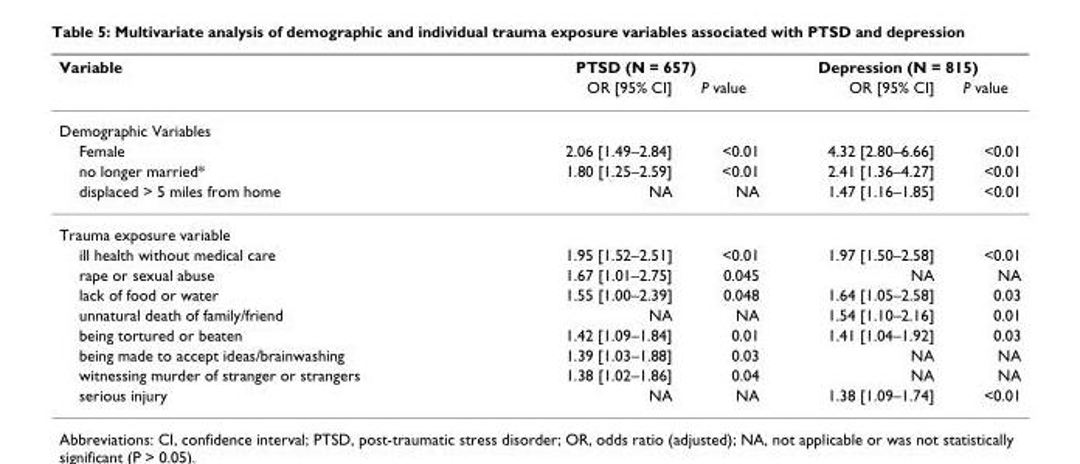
<table><thead><tr><td rowspan="2">Variable</td><td colspan="2">PTSD (N = 657)</td><td colspan="2">Depression (N = 815)</td></tr><tr><td>OR [95% CI]</td><td>P value</td><td>OR [95% CI]</td><td>P value</td></tr></thead><tbody><tr><td colspan="5">Demographic Variables</td></tr><tr><td>Female</td><td>2.06 [1.49–2.84]</td><td>&lt;0.01</td><td>4.32 [2.80–6.66]</td><td>&lt;0.01</td></tr><tr><td>no longer married*</td><td>1.80 [1.25–2.59]</td><td>&lt;0.01</td><td>2.41 [1.36–4.27]</td><td>&lt;0.01</td></tr><tr><td>displaced &gt; 5 miles from home</td><td>NA</td><td>NA</td><td>1.47 [1.16–1.85]</td><td>&lt;0.01</td></tr><tr><td colspan="5">Trauma exposure variable</td></tr><tr><td>ill health without medical care</td><td>1.95 [1.52–2.51]</td><td>&lt;0.01</td><td>1.97 [1.50–2.58]</td><td>&lt;0.01</td></tr><tr><td>rape or sexual abuse</td><td>1.67 [1.01–2.75]</td><td>0.045</td><td>NA</td><td>NA</td></tr><tr><td>lack of food or water</td><td>1.55 [1.00–2.39]</td><td>0.048</td><td>1.64 [1.05–2.58]</td><td>0.03</td></tr><tr><td>unnatural death of family/friend</td><td>NA</td><td>NA</td><td>1.54 [1.10–2.16]</td><td>0.01</td></tr><tr><td>being tortured or beaten</td><td>1.42 [1.09–1.84]</td><td>0.01</td><td>1.41 [1.04–1.92]</td><td>0.03</td></tr><tr><td>being made to accept ideas/brainwashing</td><td>1.39 [1.03–1.88]</td><td>0.03</td><td>NA</td><td>NA</td></tr><tr><td>witnessing murder of stranger or strangers</td><td>1.38 [1.02–1.86]</td><td>0.04</td><td>NA</td><td>NA</td></tr><tr><td>serious injury</td><td>NA</td><td>NA</td><td>1.38 [1.09–1.74]</td><td>&lt;0.01</td></tr></tbody></table>